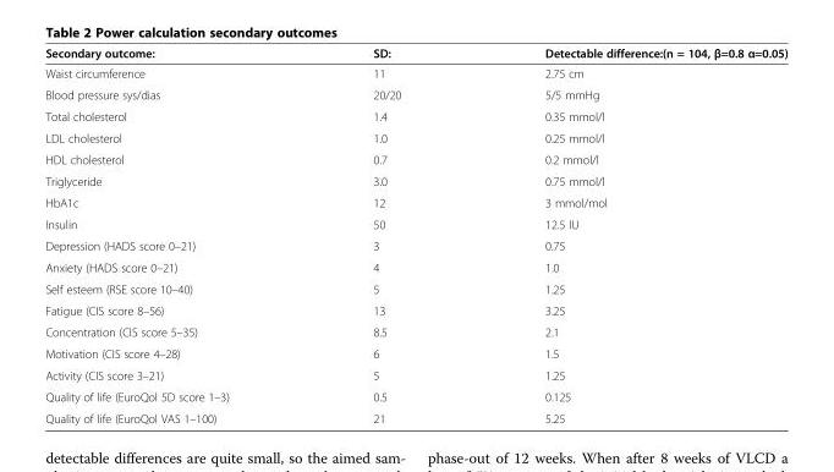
<table><thead><tr><td>Secondary outcome:</td><td>SD:</td><td>Detectable difference:(n = 104, β=0.8 α=0.05)</td></tr></thead><tbody><tr><td>Waist circumference</td><td>11</td><td>2.75 cm</td></tr><tr><td>Blood pressure sys/dias</td><td>20/20</td><td>5/5 mmHg</td></tr><tr><td>Total cholesterol</td><td>1.4</td><td>0.35 mmol/l</td></tr><tr><td>LDL cholesterol</td><td>1.0</td><td>0.25 mmol/l</td></tr><tr><td>HDL cholesterol</td><td>0.7</td><td>0.2 mmol/l</td></tr><tr><td>Triglyceride</td><td>3.0</td><td>0.75 mmol/l</td></tr><tr><td>HbA1c</td><td>12</td><td>3 mmol/mol</td></tr><tr><td>Insulin</td><td>50</td><td>12.5 IU</td></tr><tr><td>Depression (HADS score 0–21)</td><td>3</td><td>0.75</td></tr><tr><td>Anxiety (HADS score 0–21)</td><td>4</td><td>1.0</td></tr><tr><td>Self esteem (RSE score 10–40)</td><td>5</td><td>1.25</td></tr><tr><td>Fatigue (CIS score 8–56)</td><td>13</td><td>3.25</td></tr><tr><td>Concentration (CIS score 5–35)</td><td>8.5</td><td>2.1</td></tr><tr><td>Motivation (CIS score 4–28)</td><td>6</td><td>1.5</td></tr><tr><td>Activity (CIS score 3–21)</td><td>5</td><td>1.25</td></tr><tr><td>Quality of life (EuroQol 5D score 1–3)</td><td>0.5</td><td>0.125</td></tr><tr><td>Quality of life (EuroQol VAS 1–100)</td><td>21</td><td>5.25</td></tr></tbody></table>